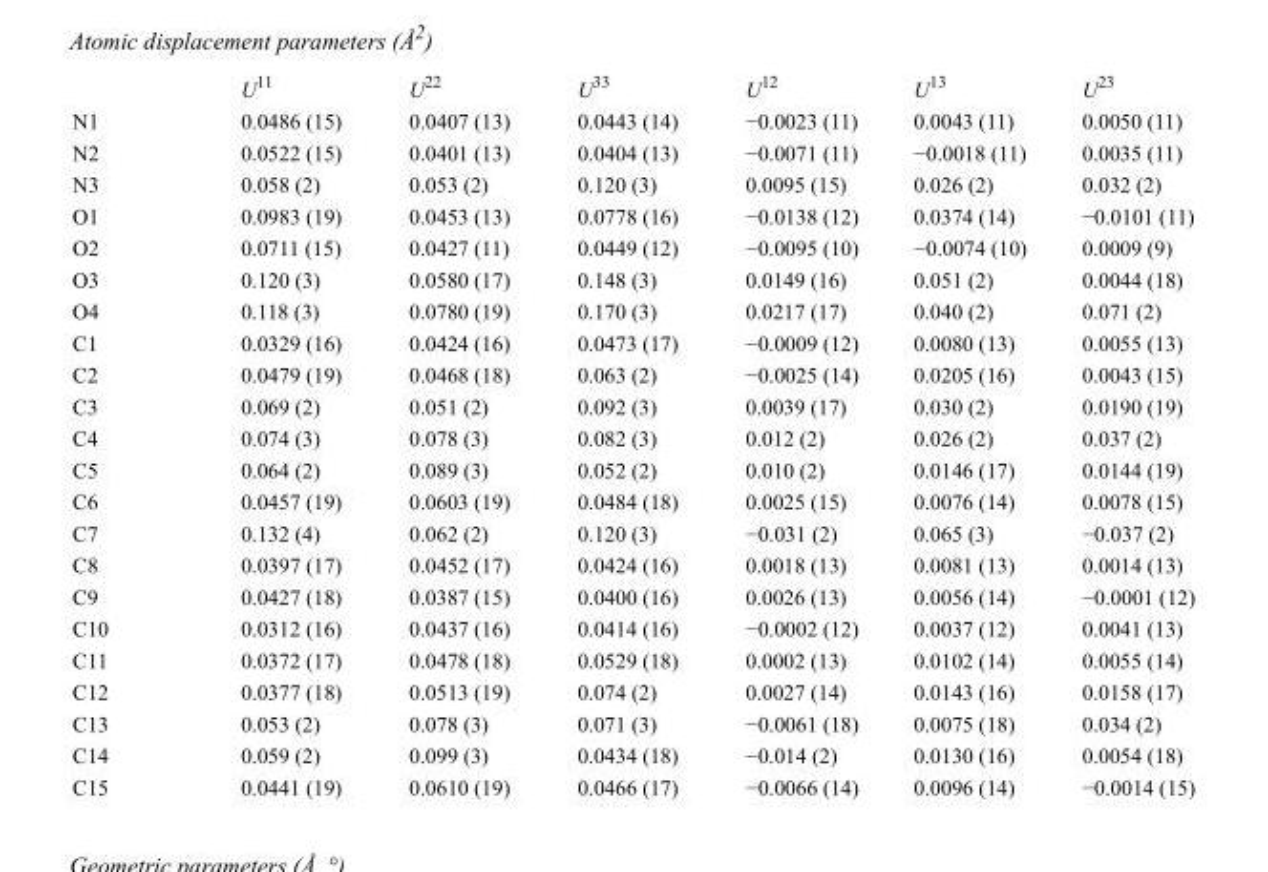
<table><thead><tr><td></td><td>U<sup>11</sup></td><td>U<sup>22</sup></td><td>U<sup>33</sup></td><td>U<sup>12</sup></td><td>U<sup>13</sup></td><td>U<sup>23</sup></td></tr></thead><tbody><tr><td>N1</td><td>0.0486 (15)</td><td>0.0407 (13)</td><td>0.0443 (14)</td><td>−0.0023 (11)</td><td>0.0043 (11)</td><td>0.0050 (11)</td></tr><tr><td>N2</td><td>0.0522 (15)</td><td>0.0401 (13)</td><td>0.0404 (13)</td><td>−0.0071 (11)</td><td>−0.0018 (11)</td><td>0.0035 (11)</td></tr><tr><td>N3</td><td>0.058 (2)</td><td>0.053 (2)</td><td>0.120 (3)</td><td>0.0095 (15)</td><td>0.026 (2)</td><td>0.032 (2)</td></tr><tr><td>O1</td><td>0.0983 (19)</td><td>0.0453 (13)</td><td>0.0778 (16)</td><td>−0.0138 (12)</td><td>0.0374 (14)</td><td>−0.0101 (11)</td></tr><tr><td>O2</td><td>0.0711 (15)</td><td>0.0427 (11)</td><td>0.0449 (12)</td><td>−0.0095 (10)</td><td>−0.0074 (10)</td><td>0.0009 (9)</td></tr><tr><td>O3</td><td>0.120 (3)</td><td>0.0580 (17)</td><td>0.148 (3)</td><td>0.0149 (16)</td><td>0.051 (2)</td><td>0.0044 (18)</td></tr><tr><td>O4</td><td>0.118 (3)</td><td>0.0780 (19)</td><td>0.170 (3)</td><td>0.0217 (17)</td><td>0.040 (2)</td><td>0.071 (2)</td></tr><tr><td>C1</td><td>0.0329 (16)</td><td>0.0424 (16)</td><td>0.0473 (17)</td><td>−0.0009 (12)</td><td>0.0080 (13)</td><td>0.0055 (13)</td></tr><tr><td>C2</td><td>0.0479 (19)</td><td>0.0468 (18)</td><td>0.063 (2)</td><td>−0.0025 (14)</td><td>0.0205 (16)</td><td>0.0043 (15)</td></tr><tr><td>C3</td><td>0.069 (2)</td><td>0.051 (2)</td><td>0.092 (3)</td><td>0.0039 (17)</td><td>0.030 (2)</td><td>0.0190 (19)</td></tr><tr><td>C4</td><td>0.074 (3)</td><td>0.078 (3)</td><td>0.082 (3)</td><td>0.012 (2)</td><td>0.026 (2)</td><td>0.037 (2)</td></tr><tr><td>C5</td><td>0.064 (2)</td><td>0.089 (3)</td><td>0.052 (2)</td><td>0.010 (2)</td><td>0.0146 (17)</td><td>0.0144 (19)</td></tr><tr><td>C6</td><td>0.0457 (19)</td><td>0.0603 (19)</td><td>0.0484 (18)</td><td>0.0025 (15)</td><td>0.0076 (14)</td><td>0.0078 (15)</td></tr><tr><td>C7</td><td>0.132 (4)</td><td>0.062 (2)</td><td>0.120 (3)</td><td>−0.031 (2)</td><td>0.065 (3)</td><td>−0.037 (2)</td></tr><tr><td>C8</td><td>0.0397 (17)</td><td>0.0452 (17)</td><td>0.0424 (16)</td><td>0.0018 (13)</td><td>0.0081 (13)</td><td>0.0014 (13)</td></tr><tr><td>C9</td><td>0.0427 (18)</td><td>0.0387 (15)</td><td>0.0400 (16)</td><td>0.0026 (13)</td><td>0.0056 (14)</td><td>−0.0001 (12)</td></tr><tr><td>C10</td><td>0.0312 (16)</td><td>0.0437 (16)</td><td>0.0414 (16)</td><td>−0.0002 (12)</td><td>0.0037 (12)</td><td>0.0041 (13)</td></tr><tr><td>C11</td><td>0.0372 (17)</td><td>0.0478 (18)</td><td>0.0529 (18)</td><td>0.0002 (13)</td><td>0.0102 (14)</td><td>0.0055 (14)</td></tr><tr><td>C12</td><td>0.0377 (18)</td><td>0.0513 (19)</td><td>0.074 (2)</td><td>0.0027 (14)</td><td>0.0143 (16)</td><td>0.0158 (17)</td></tr><tr><td>C13</td><td>0.053 (2)</td><td>0.078 (3)</td><td>0.071 (3)</td><td>−0.0061 (18)</td><td>0.0075 (18)</td><td>0.034 (2)</td></tr><tr><td>C14</td><td>0.059 (2)</td><td>0.099 (3)</td><td>0.0434 (18)</td><td>−0.014 (2)</td><td>0.0130 (16)</td><td>0.0054 (18)</td></tr><tr><td>C15</td><td>0.0441 (19)</td><td>0.0610 (19)</td><td>0.0466 (17)</td><td>−0.0066 (14)</td><td>0.0096 (14)</td><td>−0.0014 (15)</td></tr></tbody></table>